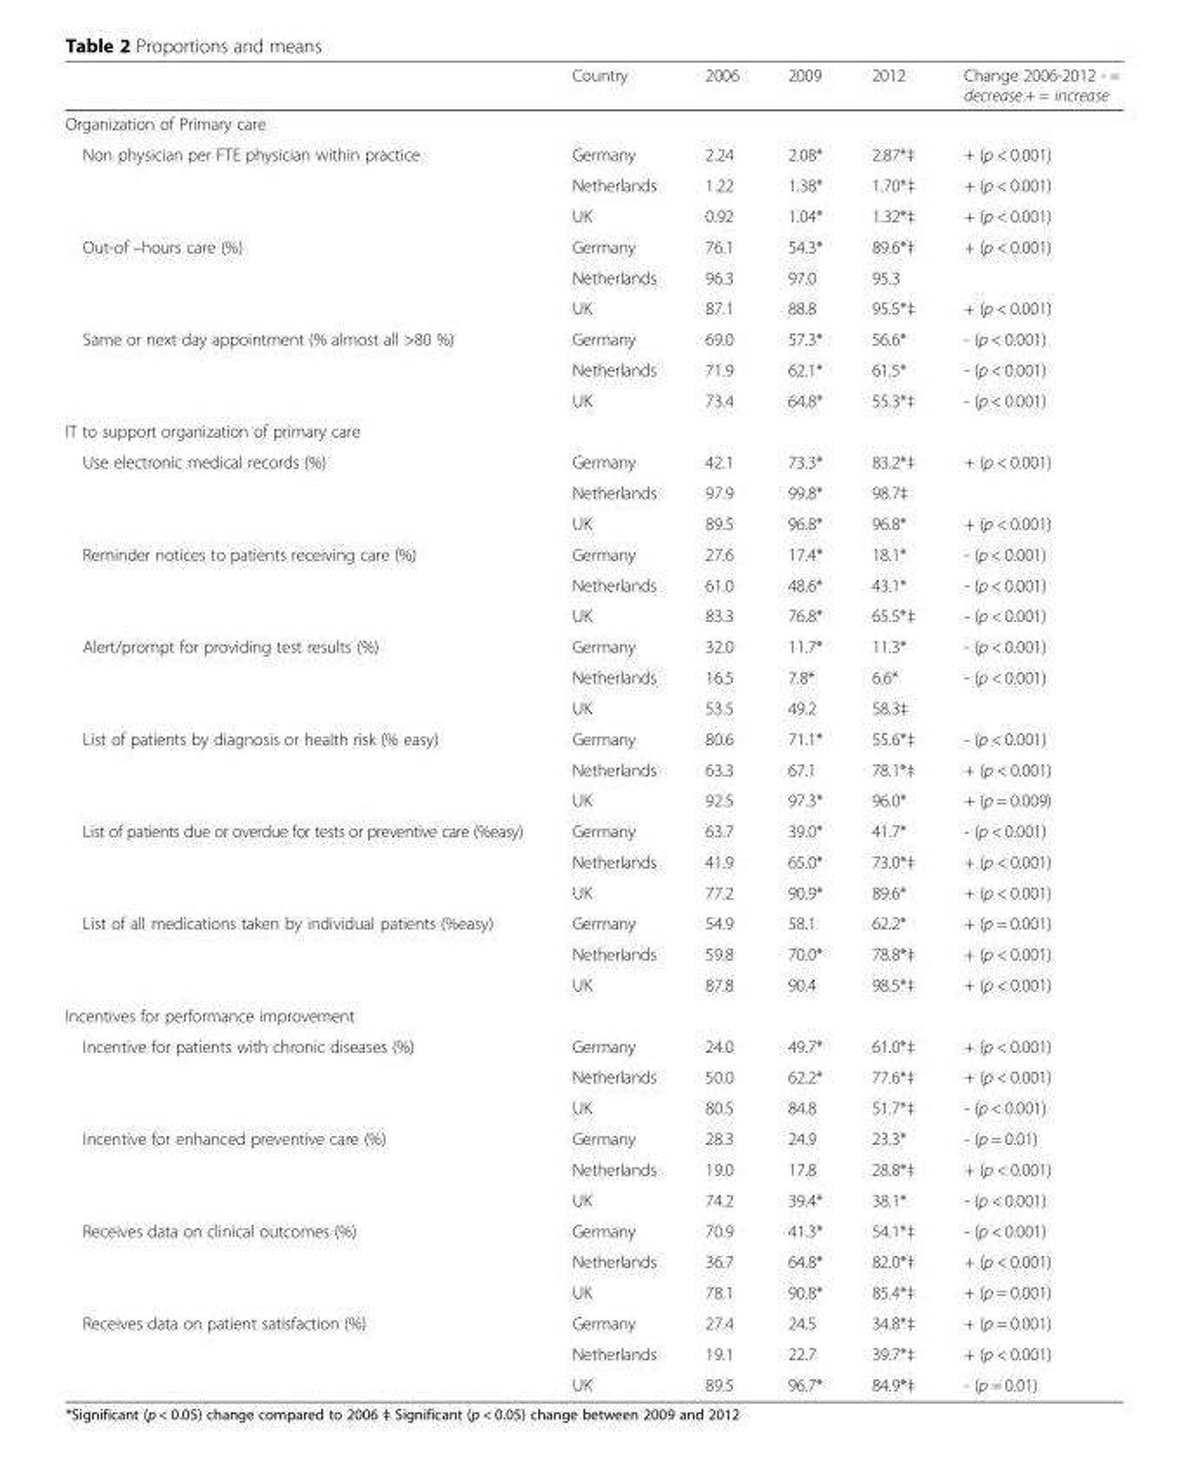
<table><thead><tr><td></td><td>Country</td><td>2006</td><td>2009</td><td>2012</td><td>Change 2006-2012 - = decrease + = increase</td></tr></thead><tbody><tr><td colspan="6">Organization of Primary care</td></tr><tr><td rowspan="3">Non physician per FTE physician within practice</td><td>Germany</td><td>2.24</td><td>2.08*</td><td>2.87*‡</td><td>+ (p &lt; 0.001)</td></tr><tr><td>Netherlands</td><td>1.22</td><td>1.38*</td><td>1.70*‡</td><td>+ (p &lt; 0.001)</td></tr><tr><td>UK</td><td>0.92</td><td>1.04*</td><td>1.32*‡</td><td>+ (p &lt; 0.001)</td></tr><tr><td rowspan="3">Out-of –hours care (%)</td><td>Germany</td><td>76.1</td><td>54.3*</td><td>89.6*‡</td><td>+ (p &lt; 0.001)</td></tr><tr><td>Netherlands</td><td>96.3</td><td>97.0</td><td>95.3</td><td></td></tr><tr><td>UK</td><td>87.1</td><td>88.8</td><td>95.5*‡</td><td>+ (p &lt; 0.001)</td></tr><tr><td rowspan="3">Same or next day appointment (% almost all &gt;80 %)</td><td>Germany</td><td>69.0</td><td>57.3*</td><td>56.6*</td><td>- (p &lt; 0.001)</td></tr><tr><td>Netherlands</td><td>71.9</td><td>62.1*</td><td>61.5*</td><td>- (p &lt; 0.001)</td></tr><tr><td>UK</td><td>73.4</td><td>64.8*</td><td>55.3*‡</td><td>- (p &lt; 0.001)</td></tr><tr><td colspan="6">IT to support organization of primary care</td></tr><tr><td rowspan="3">Use electronic medical records (%)</td><td>Germany</td><td>42.1</td><td>73.3*</td><td>83.2*‡</td><td>+ (p &lt; 0.001)</td></tr><tr><td>Netherlands</td><td>97.9</td><td>99.8*</td><td>98.7‡</td><td></td></tr><tr><td>UK</td><td>89.5</td><td>96.8*</td><td>96.8*</td><td>+ (p &lt; 0.001)</td></tr><tr><td rowspan="3">Reminder notices to patients receiving care (%)</td><td>Germany</td><td>27.6</td><td>17.4*</td><td>18.1*</td><td>- (p &lt; 0.001)</td></tr><tr><td>Netherlands</td><td>61.0</td><td>48.6*</td><td>43.1*</td><td>- (p &lt; 0.001)</td></tr><tr><td>UK</td><td>83.3</td><td>76.8*</td><td>65.5*‡</td><td>- (p &lt; 0.001)</td></tr><tr><td rowspan="3">Alert/prompt for providing test results (%)</td><td>Germany</td><td>32.0</td><td>11.7*</td><td>11.3*</td><td>- (p &lt; 0.001)</td></tr><tr><td>Netherlands</td><td>16.5</td><td>7.8*</td><td>6.6*</td><td>- (p &lt; 0.001)</td></tr><tr><td>UK</td><td>53.5</td><td>49.2</td><td>58.3‡</td><td></td></tr><tr><td rowspan="3">List of patients by diagnosis or health risk (% easy)</td><td>Germany</td><td>80.6</td><td>71.1*</td><td>55.6*‡</td><td>- (p &lt; 0.001)</td></tr><tr><td>Netherlands</td><td>63.3</td><td>67.1</td><td>78.1*‡</td><td>+ (p &lt; 0.001)</td></tr><tr><td>UK</td><td>92.5</td><td>97.3*</td><td>96.0*</td><td>+ (p = 0.009)</td></tr><tr><td rowspan="3">List of patients due or overdue for tests or preventive care (%easy)</td><td>Germany</td><td>63.7</td><td>39.0*</td><td>41.7*</td><td>- (p &lt; 0.001)</td></tr><tr><td>Netherlands</td><td>41.9</td><td>65.0*</td><td>73.0*‡</td><td>+ (p &lt; 0.001)</td></tr><tr><td>UK</td><td>77.2</td><td>90.9*</td><td>89.6*</td><td>+ (p &lt; 0.001)</td></tr><tr><td rowspan="3">List of all medications taken by individual patients (%easy)</td><td>Germany</td><td>54.9</td><td>58.1</td><td>62.2*</td><td>+ (p = 0.001)</td></tr><tr><td>Netherlands</td><td>59.8</td><td>70.0*</td><td>78.8*‡</td><td>+ (p &lt; 0.001)</td></tr><tr><td>UK</td><td>87.8</td><td>90.4</td><td>98.5*‡</td><td>+ (p &lt; 0.001)</td></tr><tr><td colspan="6">Incentives for performance improvement</td></tr><tr><td rowspan="3">Incentive for patients with chronic diseases (%)</td><td>Germany</td><td>24.0</td><td>49.7*</td><td>61.0*‡</td><td>+ (p &lt; 0.001)</td></tr><tr><td>Netherlands</td><td>50.0</td><td>62.2*</td><td>77.6*‡</td><td>+ (p &lt; 0.001)</td></tr><tr><td>UK</td><td>80.5</td><td>84.8</td><td>51.7*‡</td><td>- (p &lt; 0.001)</td></tr><tr><td rowspan="3">Incentive for enhanced preventive care (%)</td><td>Germany</td><td>28.3</td><td>24.9</td><td>23.3*</td><td>- (p = 0.01)</td></tr><tr><td>Netherlands</td><td>19.0</td><td>17.8</td><td>28.8*‡</td><td>+ (p &lt; 0.001)</td></tr><tr><td>UK</td><td>74.2</td><td>39.4*</td><td>38.1*</td><td>- (p &lt; 0.001)</td></tr><tr><td rowspan="3">Receives data on clinical outcomes (%)</td><td>Germany</td><td>70.9</td><td>41.3*</td><td>54.1*‡</td><td>- (p &lt; 0.001)</td></tr><tr><td>Netherlands</td><td>36.7</td><td>64.8*</td><td>82.0*‡</td><td>+ (p &lt; 0.001)</td></tr><tr><td>UK</td><td>78.1</td><td>90.8*</td><td>85.4*‡</td><td>+ (p = 0.001)</td></tr><tr><td rowspan="3">Receives data on patient satisfaction (%)</td><td>Germany</td><td>27.4</td><td>24.5</td><td>34.8*‡</td><td>+ (p = 0.001)</td></tr><tr><td>Netherlands</td><td>19.1</td><td>22.7</td><td>39.7*‡</td><td>+ (p &lt; 0.001)</td></tr><tr><td>UK</td><td>89.5</td><td>96.7*</td><td>84.9*‡</td><td>- (p = 0.01)</td></tr></tbody></table>